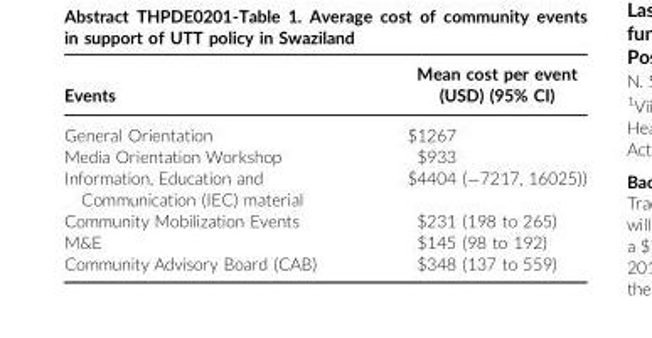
<table><thead><tr><td>Events</td><td>Mean cost per event (USD) (95% CI)</td></tr></thead><tbody><tr><td>General Orientation</td><td>$1267</td></tr><tr><td>Media Orientation Workshop</td><td>$933</td></tr><tr><td>Information, Education and Communication (IEC) material</td><td>$4404 (−7217, 16025))</td></tr><tr><td>Community Mobilization Events</td><td>$231 (198 to 265)</td></tr><tr><td>M&amp;E</td><td>$145 (98 to 192)</td></tr><tr><td>Community Advisory Board (CAB)</td><td>$348 (137 to 559)</td></tr></tbody></table>